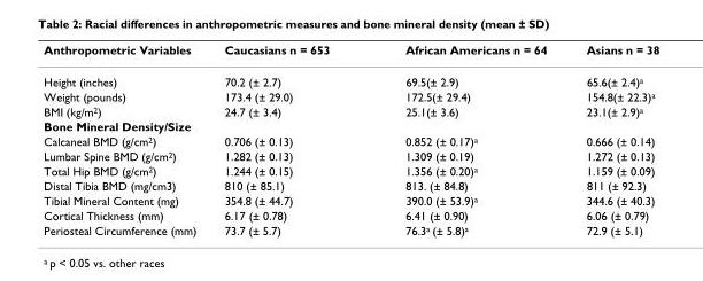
<table><thead><tr><td>Anthropometric Variables</td><td>Caucasians n = 653</td><td>African Americans n = 64</td><td>Asians n = 38</td></tr></thead><tbody><tr><td>Height (inches)</td><td>70.2 (± 2.7)</td><td>69.5(± 2.9)</td><td>65.6(± 2.4)<sup>a</sup></td></tr><tr><td>Weight (pounds)</td><td>173.4 (± 29.0)</td><td>172.5(± 29.4)</td><td>154.8(± 22.3)<sup>a</sup></td></tr><tr><td>BMI (kg/m<sup>2</sup>)</td><td>24.7 (± 3.4)</td><td>25.1(± 3.6)</td><td>23.1(± 2.9)<sup>a</sup></td></tr><tr><td colspan="4">Bone Mineral Density/Size</td></tr><tr><td>Calcaneal BMD (g/cm<sup>2</sup>)</td><td>0.706 (± 0.13)</td><td>0.852 (± 0.17)<sup>a</sup></td><td>0.666 (± 0.14)</td></tr><tr><td>Lumbar Spine BMD (g/cm<sup>2</sup>)</td><td>1.282 (± 0.13)</td><td>1.309 (± 0.19)</td><td>1.272 (± 0.13)</td></tr><tr><td>Total Hip BMD (g/cm<sup>2</sup>)</td><td>1.244 (± 0.15)</td><td>1.356 (± 0.20)<sup>a</sup></td><td>1.159 (± 0.09)</td></tr><tr><td>Distal Tibia BMD (mg/cm3)</td><td>810 (± 85.1)</td><td>813. (± 84.8)</td><td>811 (± 92.3)</td></tr><tr><td>Tibial Mineral Content (mg)</td><td>354.8 (± 44.7)</td><td>390.0 (± 53.9)<sup>a</sup></td><td>344.6 (± 40.3)</td></tr><tr><td>Cortical Thickness (mm)</td><td>6.17 (± 0.78)</td><td>6.41 (± 0.90)</td><td>6.06 (± 0.79)</td></tr><tr><td>Periosteal Circumference (mm)</td><td>73.7 (± 5.7)</td><td>76.3<sup>a</sup> (± 5.8)<sup>a</sup></td><td>72.9 (± 5.1)</td></tr></tbody></table>